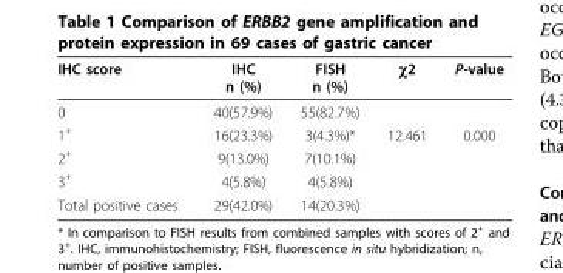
<table><thead><tr><td>IHC score</td><td>IHC n (%)</td><td>FISH n (%)</td><td>χ2</td><td>P-value</td></tr></thead><tbody><tr><td>0</td><td>40(57.9%)</td><td>55(82.7%)</td><td></td><td></td></tr><tr><td>1<sup>+</sup></td><td>16(23.3%)</td><td>3(4.3%)*</td><td>12.461</td><td>0.000</td></tr><tr><td>2<sup>+</sup></td><td>9(13.0%)</td><td>7(10.1%)</td><td></td><td></td></tr><tr><td>3<sup>+</sup></td><td>4(5.8%)</td><td>4(5.8%)</td><td></td><td></td></tr><tr><td>Total positive cases</td><td>29(42.0%)</td><td>14(20.3%)</td><td></td><td></td></tr></tbody></table>